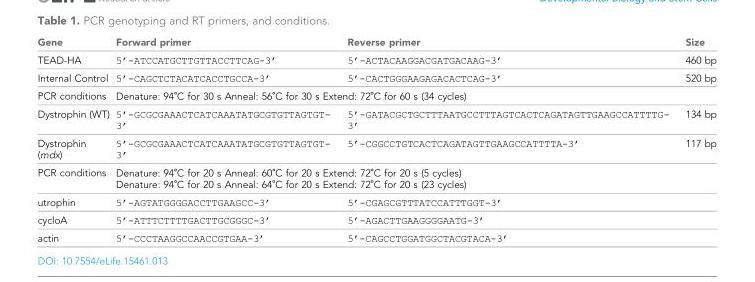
<table><thead><tr><td>Gene</td><td>Forward primer</td><td>Reverse primer</td><td>Size</td></tr></thead><tbody><tr><td>TEAD-HA</td><td>5’-ATCCATGCTTGTTACCTTCAG-3’</td><td>5’-ACTACAAGGACGATGACAAG-3’</td><td>460 bp</td></tr><tr><td>Internal Control</td><td>5’-CAGCTCTACATCACCTGCCA-3’</td><td>5’-CACTGGGAAGAGACACTCAG-3’</td><td>520 bp</td></tr><tr><td>PCR conditions</td><td colspan="3">Denature: 94˚C for 30 s Anneal: 56˚C for 30 s Extend: 72˚C for 60 s (34 cycles)</td></tr><tr><td>Dystrophin (WT)</td><td>5’-GCGCGAAACTCATCAAATATGCGTGTTAGTGT- 3’</td><td>5’-GATACGCTGCTTTAATGCCTTTAGTCACTCAGATAGTTGAAGCCATTTTG- 3’</td><td>134 bp</td></tr><tr><td>Dystrophin (mdx)</td><td>5’-GCGCGAAACTCATCAAATATGCGTGTTAGTGT- 3’</td><td>5’-CGGCCTGTCACTCAGATAGTTGAAGCCATTTTA-3’</td><td>117 bp</td></tr><tr><td>PCR conditions</td><td colspan="3">Denature: 94˚C for 20 s Anneal: 60˚C for 20 s Extend: 72˚C for 20 s (5 cycles) Denature: 94˚C for 20 s Anneal: 64˚C for 20 s Extend: 72˚C for 20 s (23 cycles)</td></tr><tr><td>utrophin</td><td>5’-AGTATGGGGACCTTGAAGCC-3’</td><td>5’-CGAGCGTTTATCCATTTGGT-3’</td><td></td></tr><tr><td>cycloA</td><td>5’-ATTTCTTTTGACTTGCGGGC-3’</td><td>5’-AGACTTGAAGGGGAATG-3’</td><td></td></tr><tr><td>actin</td><td>5’-CCCTAAGGCCAACCGTGAA-3’</td><td>5’-CAGCCTGGATGGCTACGTACA-3’</td><td></td></tr></tbody></table>